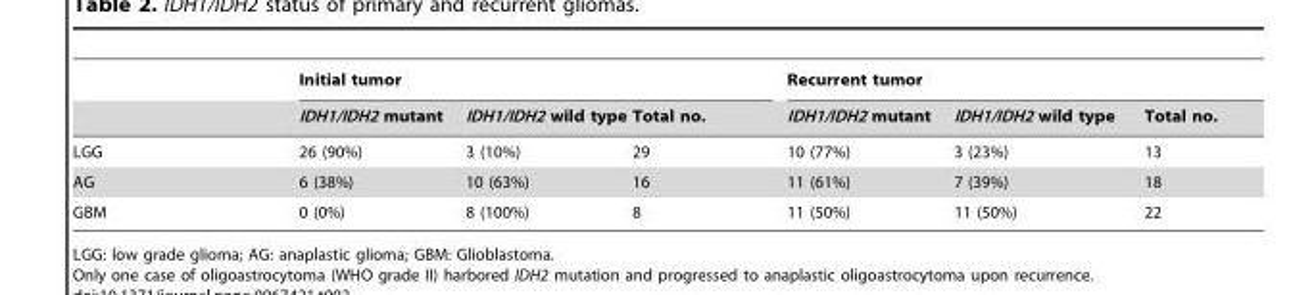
<table><thead><tr><td rowspan="2"></td><td colspan="3">Initial tumor</td><td colspan="3">Recurrent tumor</td></tr><tr><td>IDH1/IDH2 mutant</td><td>IDH1/IDH2 wild type</td><td>Total no.</td><td>IDH1/IDH2 mutant</td><td>IDH1/IDH2 wild type</td><td>Total no.</td></tr></thead><tbody><tr><td>LGG</td><td>26 (90%)</td><td>3 (10%)</td><td>29</td><td>10 (77%)</td><td>3 (23%)</td><td>13</td></tr><tr><td>AG</td><td>6 (38%)</td><td>10 (63%)</td><td>16</td><td>11 (61%)</td><td>7 (39%)</td><td>18</td></tr><tr><td>GBM</td><td>0 (0%)</td><td>8 (100%)</td><td>8</td><td>11 (50%)</td><td>11 (50%)</td><td>22</td></tr></tbody></table>